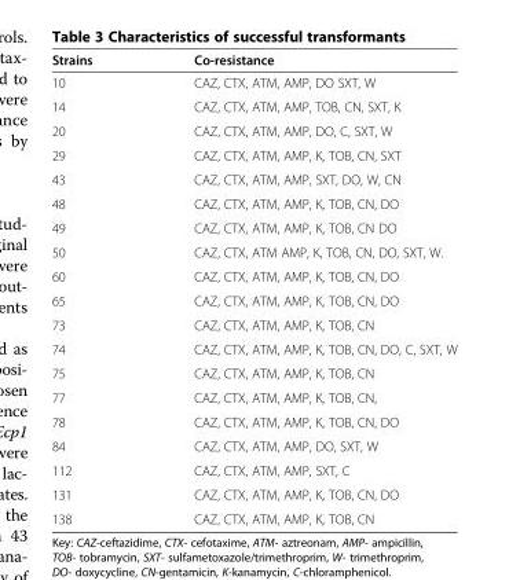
<table><thead><tr><td>Strains</td><td>Co-resistance</td></tr></thead><tbody><tr><td>10</td><td>CAZ, CTX, ATM, AMP, DO SXT, W</td></tr><tr><td>14</td><td>CAZ, CTX, ATM, AMP, TOB, CN, SXT, K</td></tr><tr><td>20</td><td>CAZ, CTX, ATM, AMP, DO, C, SXT, W</td></tr><tr><td>29</td><td>CAZ, CTX, ATM, AMP, K, TOB, CN, SXT</td></tr><tr><td>43</td><td>CAZ, CTX, ATM, AMP, SXT, DO, W, CN</td></tr><tr><td>48</td><td>CAZ, CTX, ATM, AMP, K, TOB, CN, DO</td></tr><tr><td>49</td><td>CAZ, CTX, ATM, AMP, K, TOB, CN DO</td></tr><tr><td>50</td><td>CAZ, CTX, ATM AMP, K, TOB, CN, DO, SXT, W.</td></tr><tr><td>60</td><td>CAZ, CTX, ATM, AMP, K, TOB, CN, DO</td></tr><tr><td>65</td><td>CAZ, CTX, ATM, AMP, K, TOB, CN, DO</td></tr><tr><td>73</td><td>CAZ, CTX, ATM, AMP, K, TOB, CN</td></tr><tr><td>74</td><td>CAZ, CTX, ATM, AMP, K, TOB, CN, DO, C, SXT, W</td></tr><tr><td>75</td><td>CAZ, CTX, ATM, AMP, K, TOB, CN</td></tr><tr><td>77</td><td>CAZ, CTX, ATM, AMP, K, TOB, CN,</td></tr><tr><td>78</td><td>CAZ, CTX, ATM, AMP, K, TOB, CN, DO</td></tr><tr><td>84</td><td>CAZ, CTX, ATM, AMP, DO, SXT, W</td></tr><tr><td>112</td><td>CAZ, CTX, ATM, AMP, SXT, C</td></tr><tr><td>131</td><td>CAZ, CTX, ATM, AMP, K, TOB, CN, DO</td></tr><tr><td>138</td><td>CAZ, CTX, ATM, AMP, K, TOB, CN</td></tr></tbody></table>